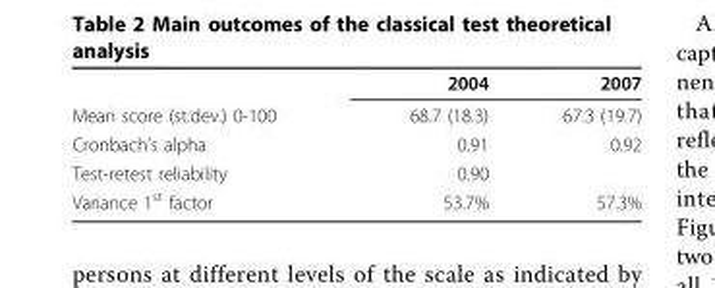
<table><thead><tr><td></td><td>2004</td><td>2007</td></tr></thead><tbody><tr><td>Mean score (st.dev.) 0-100</td><td>68.7 (18.3)</td><td>67.3 (19.7)</td></tr><tr><td>Cronbach’s alpha</td><td>0.91</td><td>0.92</td></tr><tr><td>Test-retest reliability</td><td>0.90</td><td></td></tr><tr><td>Variance 1<sup>st</sup> factor</td><td>53.7%</td><td>57.3%</td></tr></tbody></table>